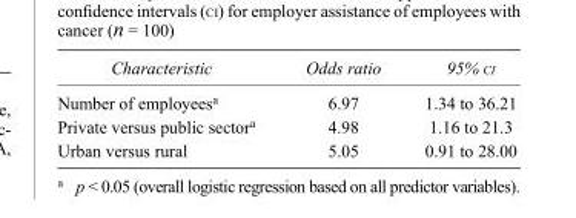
<table><thead><tr><td>Characteristic</td><td>Odds ratio</td><td>95% Ci</td></tr></thead><tbody><tr><td>Number of employees<sup>a</sup></td><td>6.97</td><td>1.34 to 36.21</td></tr><tr><td>Private versus public sector<sup>a</sup></td><td>4.98</td><td>1.16 to 21.3</td></tr><tr><td>Urban versus rural</td><td>5.05</td><td>0.91 to 28.00</td></tr></tbody></table>